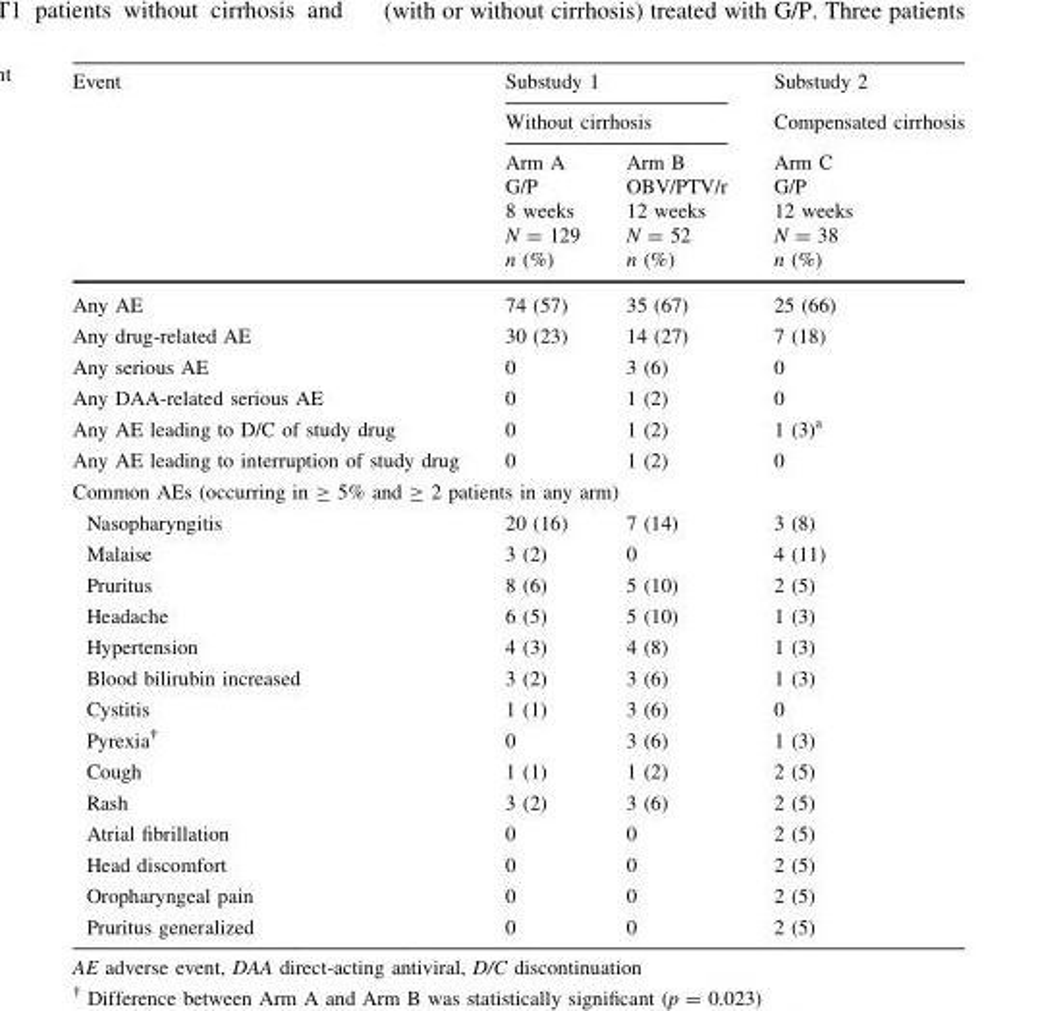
<table><thead><tr><td rowspan="7">Event</td><td rowspan="2" colspan="2">Substudy 1 Without cirrhosis</td><td rowspan="7">Substudy 2 Compensated cirrhosis Arm C G/P 12 weeks N = 38 n (%)</td></tr><tr></tr><tr><td rowspan="5">Arm A G/P 8 weeks N = 129 n (%)</td><td rowspan="5">Arm B OBV/PTV/r 12 weeks N = 52 n (%)</td></tr><tr></tr><tr></tr><tr></tr><tr></tr></thead><tbody><tr><td>Any AE</td><td>74 (57)</td><td>35 (67)</td><td>25 (66)</td></tr><tr><td>Any drug-related AE</td><td>30 (23)</td><td>14 (27)</td><td>7 (18)</td></tr><tr><td>Any serious AE</td><td>0</td><td>3 (6)</td><td>0</td></tr><tr><td>Any DAA-related serious AE</td><td>0</td><td>1 (2)</td><td>0</td></tr><tr><td>Any AE leading to D/C of study drug</td><td>0</td><td>1 (2)</td><td>1 (3)<sup>a</sup></td></tr><tr><td>Any AE leading to interruption of study drug</td><td>0</td><td>1 (2)</td><td>0</td></tr><tr><td colspan="4">Common AEs (occurring in ≥ 5% and ≥ 2 patients in any arm)</td></tr><tr><td>Nasopharyngitis</td><td>20 (16)</td><td>7 (14)</td><td>3 (8)</td></tr><tr><td>Malaise</td><td>3 (2)</td><td>0</td><td>4 (11)</td></tr><tr><td>Pruritus</td><td>8 (6)</td><td>5 (10)</td><td>2 (5)</td></tr><tr><td>Headache</td><td>6 (5)</td><td>5 (10)</td><td>1 (3)</td></tr><tr><td>Hypertension</td><td>4 (3)</td><td>4 (8)</td><td>1 (3)</td></tr><tr><td>Blood bilirubin increased</td><td>3 (2)</td><td>3 (6)</td><td>1 (3)</td></tr><tr><td>Cystitis</td><td>1 (1)</td><td>3 (6)</td><td>0</td></tr><tr><td>Pyrexia<sup>†</sup></td><td>0</td><td>3 (6)</td><td>1 (3)</td></tr><tr><td>Cough</td><td>1 (1)</td><td>1 (2)</td><td>2 (5)</td></tr><tr><td>Rash</td><td>3 (2)</td><td>3 (6)</td><td>2 (5)</td></tr><tr><td>Atrial fibrillation</td><td>0</td><td>0</td><td>2 (5)</td></tr><tr><td>Head discomfort</td><td>0</td><td>0</td><td>2 (5)</td></tr><tr><td>Oropharyngeal pain</td><td>0</td><td>0</td><td>2 (5)</td></tr><tr><td>Pruritus generalized</td><td>0</td><td>0</td><td>2 (5)</td></tr></tbody></table>